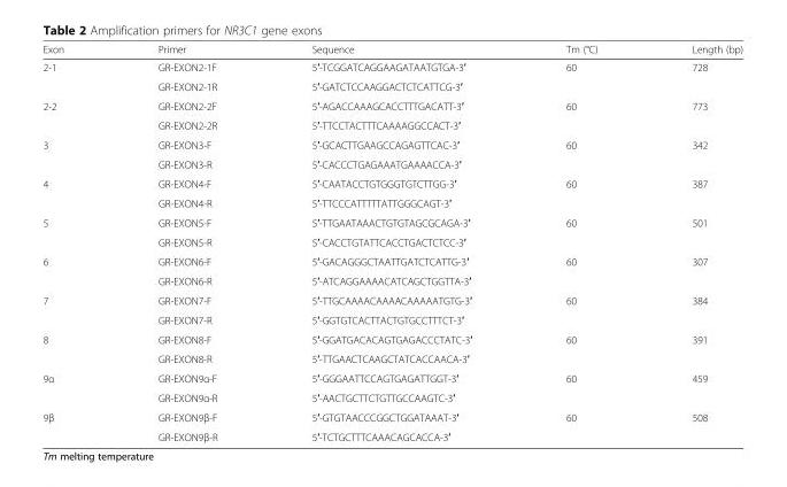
<table><thead><tr><td>Exon</td><td>Primer</td><td>Sequence</td><td>Tm (°C)</td><td>Length (bp)</td></tr></thead><tbody><tr><td rowspan="2">2-1</td><td>GR-EXON2-1F</td><td>5′-TCGGATCAGGAAGATAATGTGA-3′</td><td rowspan="2">60</td><td rowspan="2">728</td></tr><tr><td>GR-EXON2-1R</td><td>5′-GATCTCCAAGGACTCTCATTCG-3′</td></tr><tr><td rowspan="2">2-2</td><td>GR-EXON2-2F</td><td>5′-AGACCAAAGCACCTTTGACATT-3′</td><td rowspan="2">60</td><td rowspan="2">773</td></tr><tr><td>GR-EXON2-2R</td><td>5′-TTCCTACTTTCAAAAGGCCACT-3′</td></tr><tr><td rowspan="2">3</td><td>GR-EXON3-F</td><td>5′-GCACTTGAAGCCAGAGTTCAC-3′</td><td rowspan="2">60</td><td rowspan="2">342</td></tr><tr><td>GR-EXON3-R</td><td>5′-CACCCTGAGAAATGAAAACCA-3′</td></tr><tr><td rowspan="2">4</td><td>GR-EXON4-F</td><td>5′-CAATACCTGTGGGTGTCTTGG-3′</td><td rowspan="2">60</td><td rowspan="2">387</td></tr><tr><td>GR-EXON4-R</td><td>5′-TTCCCATTTTTATTGGGCAGT-3′</td></tr><tr><td rowspan="2">5</td><td>GR-EXON5-F</td><td>5′-TTGAATAAACTGTGTAGCGCAGA-3′</td><td rowspan="2">60</td><td rowspan="2">501</td></tr><tr><td>GR-EXON5-R</td><td>5′-CACCTGTATTCACCTGACTCTCC-3′</td></tr><tr><td rowspan="2">6</td><td>GR-EXON6-F</td><td>5′-GACAGGGCTAATTGATCTCATTG-3′</td><td rowspan="2">60</td><td rowspan="2">307</td></tr><tr><td>GR-EXON6-R</td><td>5′-ATCAGGAAAACATCAGCTGGTTA-3′</td></tr><tr><td rowspan="2">7</td><td>GR-EXON7-F</td><td>5′-TTGCAAAACAAAACAAAAATGTG-3′</td><td rowspan="2">60</td><td rowspan="2">384</td></tr><tr><td>GR-EXON7-R</td><td>5′-GGTGTCACTTACTGTGCCTTTCT-3′</td></tr><tr><td rowspan="2">8</td><td>GR-EXON8-F</td><td>5′-GGATGACACAGTGAGACCCTATC-3′</td><td rowspan="2">60</td><td rowspan="2">391</td></tr><tr><td>GR-EXON8-R</td><td>5′-TTGAACTCAAGCTATCACCAACA-3′</td></tr><tr><td rowspan="2">9α</td><td>GR-EXON9α-F</td><td>5′-GGGAATTCCAGTGAGATTGGT-3′</td><td rowspan="2">60</td><td rowspan="2">459</td></tr><tr><td>GR-EXON9α-R</td><td>5′-AACTGCTTCTGTTGCCAAGTC-3′</td></tr><tr><td rowspan="2">9β</td><td>GR-EXON9β-F</td><td>5′-GTGTAACCCGGCTGGATAAAT-3′</td><td rowspan="2">60</td><td rowspan="2">508</td></tr><tr><td>GR-EXON9β-R</td><td>5′-TCTGCTTTCAAACAGCACCA-3′</td></tr></tbody></table>